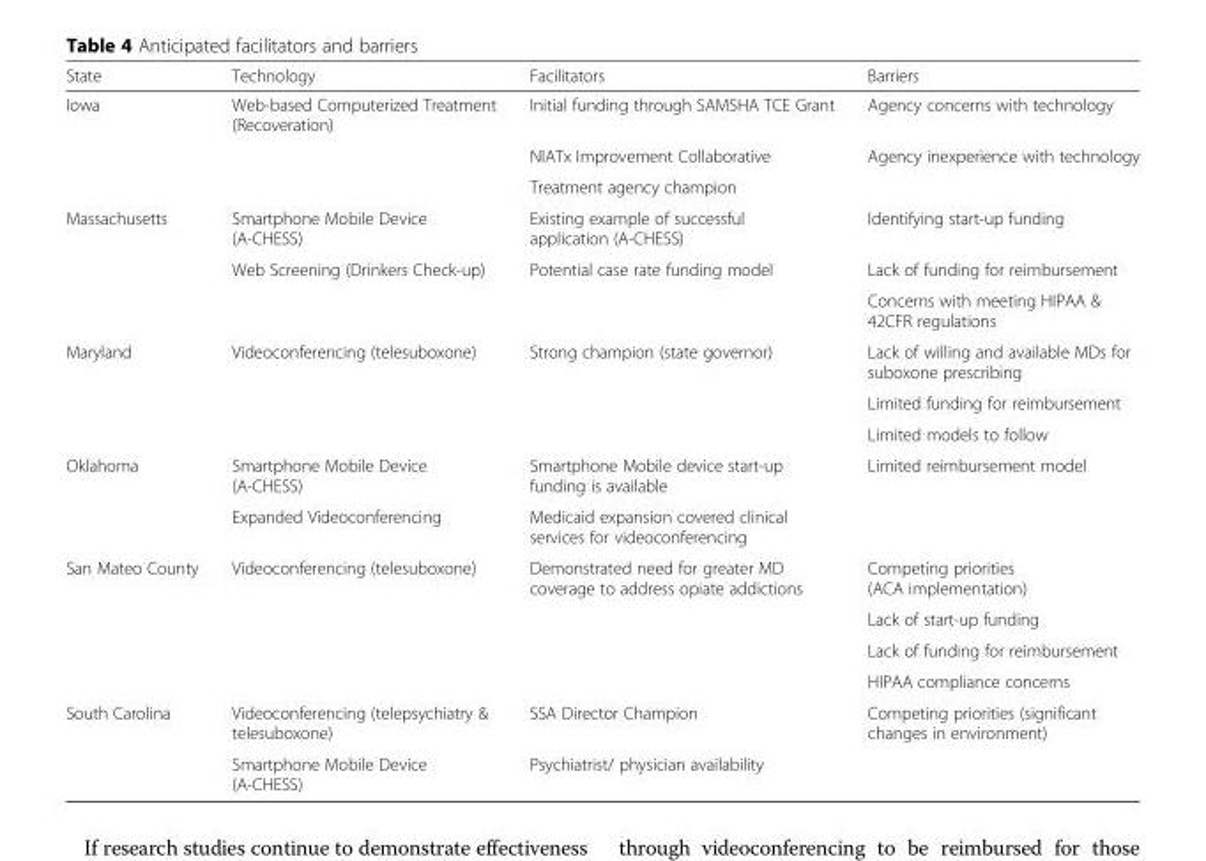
<table><thead><tr><td>State</td><td>Technology</td><td>Facilitators</td><td>Barriers</td></tr></thead><tbody><tr><td rowspan="3">Iowa</td><td>Web-based Computerized Treatment (Recoveration)</td><td>Initial funding through SAMSHA TCE Grant</td><td>Agency concerns with technology</td></tr><tr><td rowspan="2"></td><td>NIATx Improvement Collaborative</td><td>Agency inexperience with technology</td></tr><tr><td>Treatment agency champion</td><td></td></tr><tr><td rowspan="3">Massachusetts</td><td>Smartphone Mobile Device (A-CHESS)</td><td>Existing example of successful application (A-CHESS)</td><td>Identifying start-up funding</td></tr><tr><td rowspan="2">Web Screening (Drinkers Check-up)</td><td rowspan="2">Potential case rate funding model</td><td>Lack of funding for reimbursement</td></tr><tr><td>Concerns with meeting HIPAA &amp; 42CFR regulations</td></tr><tr><td rowspan="3">Maryland</td><td rowspan="3">Videoconferencing (telesuboxone)</td><td rowspan="3">Strong champion (state governor)</td><td>Lack of willing and available MDs for suboxone prescribing</td></tr><tr><td>Limited funding for reimbursement</td></tr><tr><td>Limited models to follow</td></tr><tr><td rowspan="2">Oklahoma</td><td>Smartphone Mobile Device (A-CHESS)</td><td>Smartphone Mobile device start-up funding is available</td><td>Limited reimbursement model</td></tr><tr><td>Expanded Videoconferencing</td><td>Medicaid expansion covered clinical services for videoconferencing</td><td></td></tr><tr><td rowspan="4">San Mateo County</td><td>Videoconferencing (telesuboxone)</td><td>Demonstrated need for greater MD coverage to address opiate addictions</td><td>Competing priorities (ACA implementation)</td></tr><tr><td rowspan="3"></td><td rowspan="3"></td><td>Lack of start-up funding</td></tr><tr><td>Lack of funding for reimbursement</td></tr><tr><td>HIPAA compliance concerns</td></tr><tr><td rowspan="2">South Carolina</td><td>Videoconferencing (telepsychiatry &amp; telesuboxone)</td><td>SSA Director Champion</td><td>Competing priorities (significant changes in environment)</td></tr><tr><td>Smartphone Mobile Device (A-CHESS)</td><td>Psychiatrist/ physician availability</td><td></td></tr></tbody></table>